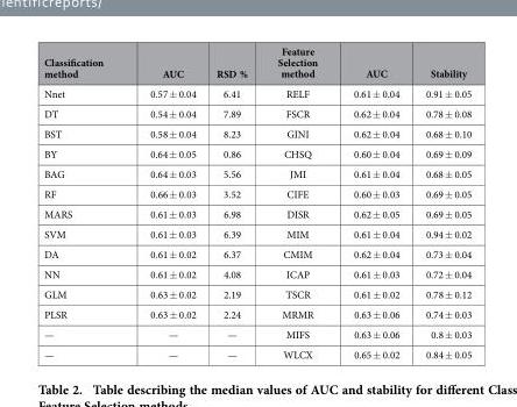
<table><thead><tr><td>Classification method</td><td>AUC</td><td>RSD %</td><td>Feature Selection method</td><td>AUC</td><td>Stability</td></tr></thead><tbody><tr><td>Nnet</td><td>0.57 ± 0.04</td><td>6.41</td><td>RELF</td><td>0.61 ± 0.04</td><td>0.91 ± 0.05</td></tr><tr><td>DT</td><td>0.54 ± 0.04</td><td>7.89</td><td>FSCR</td><td>0.62 ± 0.04</td><td>0.78 ± 0.08</td></tr><tr><td>BST</td><td>0.58 ± 0.04</td><td>8.23</td><td>GINI</td><td>0.62 ± 0.04</td><td>0.68 ± 0.10</td></tr><tr><td>BY</td><td>0.64 ± 0.05</td><td>0.86</td><td>CHSQ</td><td>0.60 ± 0.04</td><td>0.69 ± 0.09</td></tr><tr><td>BAG</td><td>0.64 ± 0.03</td><td>5.56</td><td>JMI</td><td>0.61 ± 0.04</td><td>0.68 ± 0.05</td></tr><tr><td>RF</td><td>0.66 ± 0.03</td><td>3.52</td><td>CIFE</td><td>0.60 ± 0.03</td><td>0.69 ± 0.05</td></tr><tr><td>MARS</td><td>0.61 ± 0.03</td><td>6.98</td><td>DISR</td><td>0.62 ± 0.05</td><td>0.69 ± 0.05</td></tr><tr><td>SVM</td><td>0.61 ± 0.03</td><td>6.39</td><td>MIM</td><td>0.61 ± 0.04</td><td>0.94 ± 0.02</td></tr><tr><td>DA</td><td>0.61 ± 0.02</td><td>6.37</td><td>CMIM</td><td>0.62 ± 0.04</td><td>0.73 ± 0.04</td></tr><tr><td>NN</td><td>0.61 ± 0.02</td><td>4.08</td><td>ICAP</td><td>0.61 ± 0.03</td><td>0.72 ± 0.04</td></tr><tr><td>GLM</td><td>0.63 ± 0.02</td><td>2.19</td><td>TSCR</td><td>0.61 ± 0.02</td><td>0.78 ± 0.12</td></tr><tr><td>PLSR</td><td>0.63 ± 0.02</td><td>2.24</td><td>MRMR</td><td>0.63 ± 0.06</td><td>0.74 ± 0.03</td></tr><tr><td>—</td><td>—</td><td>—</td><td>MIFS</td><td>0.63 ± 0.06</td><td>0.8 ± 0.03</td></tr><tr><td>—</td><td>—</td><td>—</td><td>WLCX</td><td>0.65 ± 0.02</td><td>0.84 ± 0.05</td></tr></tbody></table>